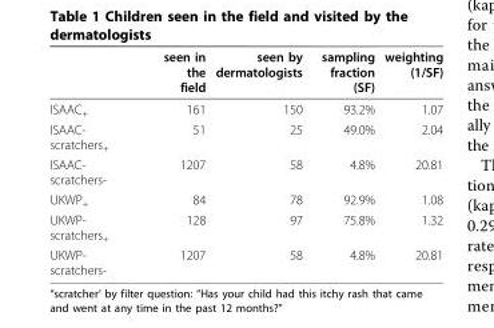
<table><thead><tr><td></td><td>seen in the field</td><td>seen by dermatologists</td><td>sampling fraction (SF)</td><td>weighting (1/SF)</td></tr></thead><tbody><tr><td>ISAAC<sub>+</sub></td><td>161</td><td>150</td><td>93.2%</td><td>1.07</td></tr><tr><td>ISAAC- scratchers<sub>+</sub></td><td>51</td><td>25</td><td>49.0%</td><td>2.04</td></tr><tr><td>ISAAC- scratchers-</td><td>1207</td><td>58</td><td>4.8%</td><td>20.81</td></tr><tr><td>UKWP<sub>+</sub></td><td>84</td><td>78</td><td>92.9%</td><td>1.08</td></tr><tr><td>UKWP- scratchers<sub>+</sub></td><td>128</td><td>97</td><td>75.8%</td><td>1.32</td></tr><tr><td>UKWP- scratchers-</td><td>1207</td><td>58</td><td>4.8%</td><td>20.81</td></tr></tbody></table>